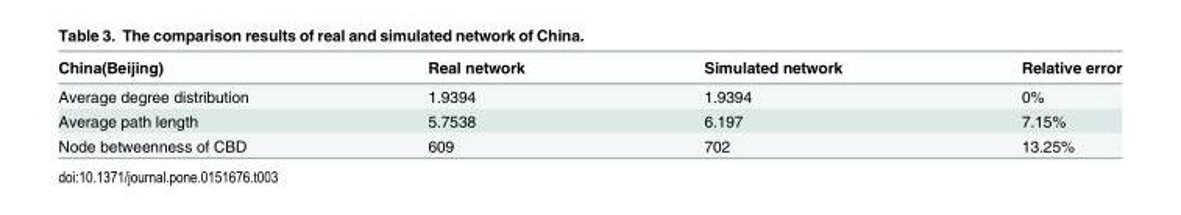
<table><thead><tr><td>China(Beijing)</td><td>Real network</td><td>Simulated network</td><td>Relative error</td></tr></thead><tbody><tr><td>Average degree distribution</td><td>1.9394</td><td>1.9394</td><td>0%</td></tr><tr><td>Average path length</td><td>5.7538</td><td>6.197</td><td>7.15%</td></tr><tr><td>Node betweenness of CBD</td><td>609</td><td>702</td><td>13.25%</td></tr></tbody></table>